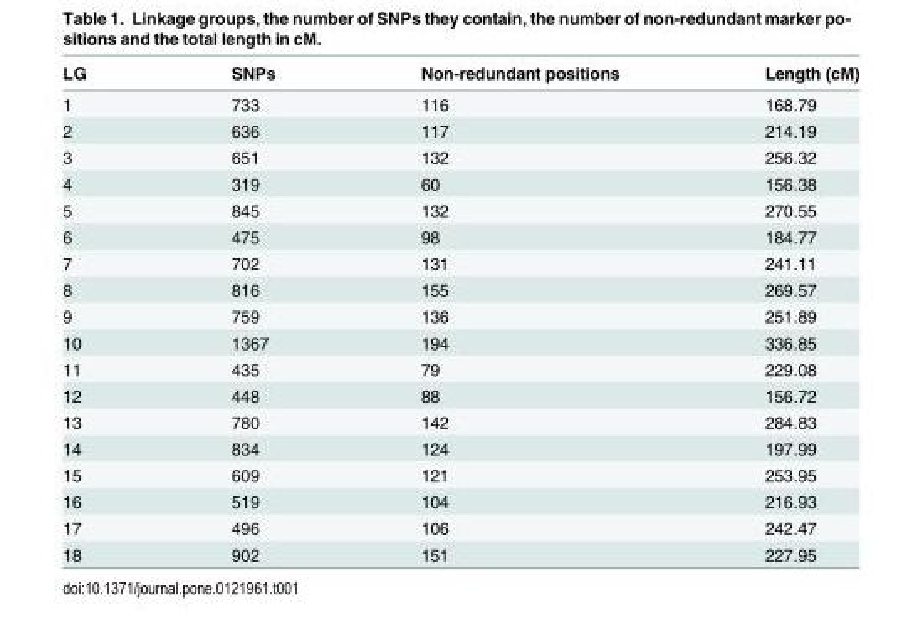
<table><thead><tr><td>LG</td><td>SNPs</td><td>Non-redundant positions</td><td>Length (cM)</td></tr></thead><tbody><tr><td>1</td><td>733</td><td>116</td><td>168.79</td></tr><tr><td>2</td><td>636</td><td>117</td><td>214.19</td></tr><tr><td>3</td><td>651</td><td>132</td><td>256.32</td></tr><tr><td>4</td><td>319</td><td>60</td><td>156.38</td></tr><tr><td>5</td><td>845</td><td>132</td><td>270.55</td></tr><tr><td>6</td><td>475</td><td>98</td><td>184.77</td></tr><tr><td>7</td><td>702</td><td>131</td><td>241.11</td></tr><tr><td>8</td><td>816</td><td>155</td><td>269.57</td></tr><tr><td>9</td><td>759</td><td>136</td><td>251.89</td></tr><tr><td>10</td><td>1367</td><td>194</td><td>336.85</td></tr><tr><td>11</td><td>435</td><td>79</td><td>229.08</td></tr><tr><td>12</td><td>448</td><td>88</td><td>156.72</td></tr><tr><td>13</td><td>780</td><td>142</td><td>284.83</td></tr><tr><td>14</td><td>834</td><td>124</td><td>197.99</td></tr><tr><td>15</td><td>609</td><td>121</td><td>253.95</td></tr><tr><td>16</td><td>519</td><td>104</td><td>216.93</td></tr><tr><td>17</td><td>496</td><td>106</td><td>242.47</td></tr><tr><td>18</td><td>902</td><td>151</td><td>227.95</td></tr></tbody></table>